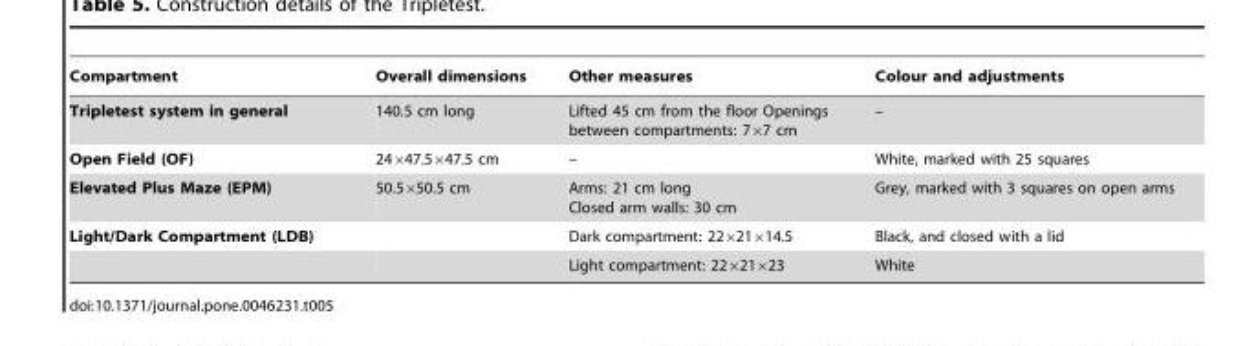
<table><thead><tr><td>Compartment</td><td>Overall dimensions</td><td>Other measures</td><td>Colour and adjustments</td></tr></thead><tbody><tr><td>Tripletest system in general</td><td>140.5 cm long</td><td>Lifted 45 cm from the floor Openings between compartments: 7×7 cm</td><td>–</td></tr><tr><td>Open Field (OF)</td><td>24×47.5×47.5 cm</td><td>–</td><td>White, marked with 25 squares</td></tr><tr><td>Elevated Plus Maze (EPM)</td><td>50.5×50.5 cm</td><td>Arms: 21 cm long Closed arm walls: 30 cm</td><td>Grey, marked with 3 squares on open arms</td></tr><tr><td rowspan="2">Light/Dark Compartment (LDB)</td><td></td><td>Dark compartment: 22×21×14.5</td><td>Black, and closed with a lid</td></tr><tr><td></td><td>Light compartment: 22×21×23</td><td>White</td></tr></tbody></table>